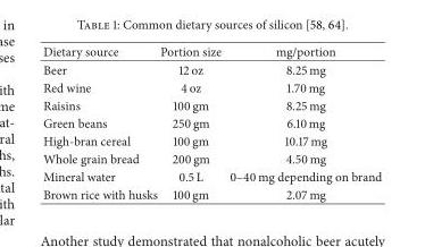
<table><thead><tr><td>Dietary source</td><td>Portion size</td><td>mg/portion</td></tr></thead><tbody><tr><td>Beer</td><td>12 oz</td><td>8.25 mg</td></tr><tr><td>Red wine</td><td>4 oz</td><td>1.70 mg</td></tr><tr><td>Raisins</td><td>100 gm</td><td>8.25 mg</td></tr><tr><td>Green beans</td><td>250 gm</td><td>6.10 mg</td></tr><tr><td>High-bran cereal</td><td>100 gm</td><td>10.17 mg</td></tr><tr><td>Whole grain bread</td><td>200 gm</td><td>4.50 mg</td></tr><tr><td>Mineral water</td><td>0.5 L</td><td>0–40 mg depending on brand</td></tr><tr><td>Brown rice with husks</td><td>100 gm</td><td>2.07 mg</td></tr></tbody></table>